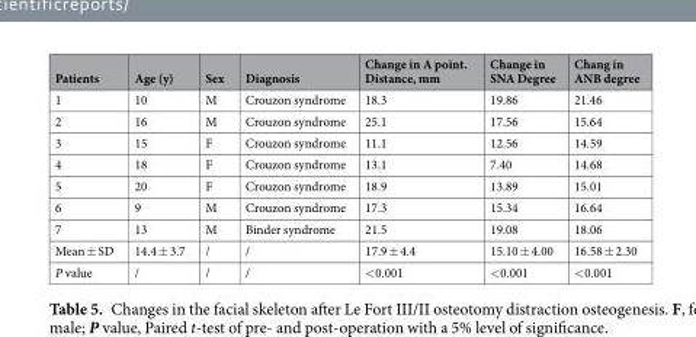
<table><thead><tr><td>Patients</td><td>Age (y)</td><td>Sex</td><td>Diagnosis</td><td>Change in A point. Distance, mm</td><td>Change in SNA Degree</td><td>Chang in ANB degree</td></tr></thead><tbody><tr><td>1</td><td>10</td><td>M</td><td>Crouzon syndrome</td><td>18.3</td><td>19.86</td><td>21.46</td></tr><tr><td>2</td><td>16</td><td>M</td><td>Crouzon syndrome</td><td>25.1</td><td>17.56</td><td>15.64</td></tr><tr><td>3</td><td>15</td><td>F</td><td>Crouzon syndrome</td><td>11.1</td><td>12.56</td><td>14.59</td></tr><tr><td>4</td><td>18</td><td>F</td><td>Crouzon syndrome</td><td>13.1</td><td>7.40</td><td>14.68</td></tr><tr><td>5</td><td>20</td><td>F</td><td>Crouzon syndrome</td><td>18.9</td><td>13.89</td><td>15.01</td></tr><tr><td>6</td><td>9</td><td>M</td><td>Crouzon syndrome</td><td>17.3</td><td>15.34</td><td>16.64</td></tr><tr><td>7</td><td>13</td><td>M</td><td>Binder syndrome</td><td>21.5</td><td>19.08</td><td>18.06</td></tr><tr><td>Mean ± SD</td><td>14.4 ± 3.7</td><td>/</td><td>/</td><td>17.9 ± 4.4</td><td>15.10 ± 4.00</td><td>16.58 ± 2.30</td></tr><tr><td>P value</td><td>/</td><td>/</td><td>/</td><td>&lt;0.001</td><td>&lt;0.001</td><td>&lt;0.001</td></tr></tbody></table>